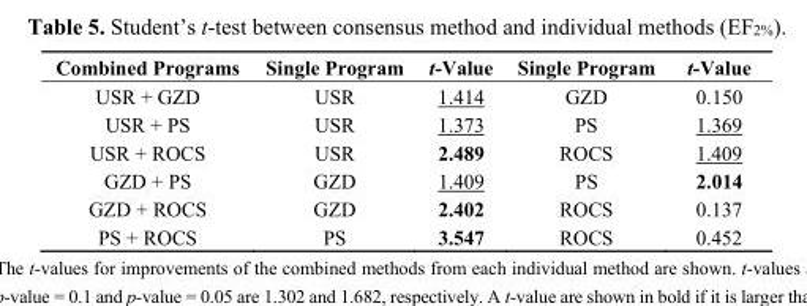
<table><thead><tr><td>Combined Programs</td><td>Single Program</td><td>t-Value</td><td>Single Program</td><td>t-Value</td></tr></thead><tbody><tr><td>USR + GZD</td><td>USR</td><td>1.414</td><td>GZD</td><td>0.150</td></tr><tr><td>USR + PS</td><td>USR</td><td>1.373</td><td>PS</td><td>1.369</td></tr><tr><td>USR + ROCS</td><td>USR</td><td>2.489</td><td>ROCS</td><td>1.409</td></tr><tr><td>GZD + PS</td><td>GZD</td><td>1.409</td><td>PS</td><td>2.014</td></tr><tr><td>GZD + ROCS</td><td>GZD</td><td>2.402</td><td>ROCS</td><td>0.137</td></tr><tr><td>PS + ROCS</td><td>PS</td><td>3.547</td><td>ROCS</td><td>0.452</td></tr></tbody></table>